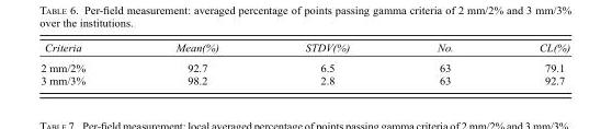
<table><thead><tr><td>Criteria</td><td>Mean(%)</td><td>STDV(%)</td><td>No.</td><td>CL(%)</td></tr></thead><tbody><tr><td>2 mm/2%</td><td>92.7</td><td>6.5</td><td>63</td><td>79.1</td></tr><tr><td>3 mm/3%</td><td>98.2</td><td>2.8</td><td>63</td><td>92.7</td></tr></tbody></table>